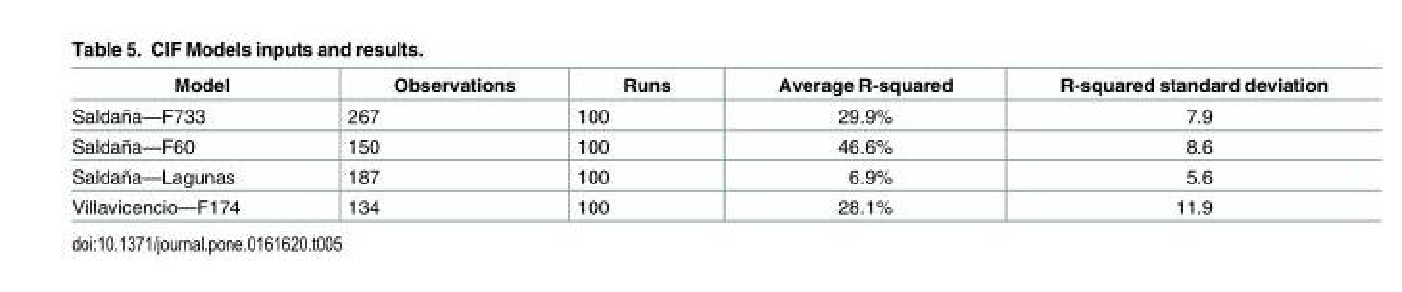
<table><thead><tr><td>Model</td><td>Observations</td><td>Runs</td><td>Average R-squared</td><td>R-squared standard deviation</td></tr></thead><tbody><tr><td>Saldaña—F733</td><td>267</td><td>100</td><td>29.9%</td><td>7.9</td></tr><tr><td>Saldaña—F60</td><td>150</td><td>100</td><td>46.6%</td><td>8.6</td></tr><tr><td>Saldaña—Lagunas</td><td>187</td><td>100</td><td>6.9%</td><td>5.6</td></tr><tr><td>Villavicencio—F174</td><td>134</td><td>100</td><td>28.1%</td><td>11.9</td></tr></tbody></table>